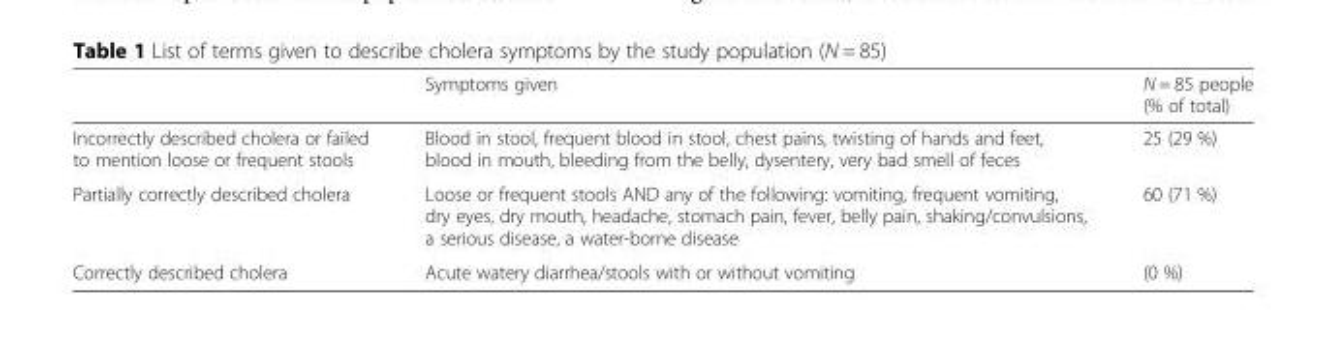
<table><thead><tr><td></td><td>Symptoms given</td><td>N = 85 people (% of total)</td></tr></thead><tbody><tr><td>Incorrectly described cholera or failed to mention loose or frequent stools</td><td>Blood in stool, frequent blood in stool, chest pains, twisting of hands and feet, blood in mouth, bleeding from the belly, dysentery, very bad smell of feces</td><td>25 (29 %)</td></tr><tr><td>Partially correctly described cholera</td><td>Loose or frequent stools AND any of the following: vomiting, frequent vomiting, dry eyes, dry mouth, headache, stomach pain, fever, belly pain, shaking/convulsions, a serious disease, a water-borne disease</td><td>60 (71 %)</td></tr><tr><td>Correctly described cholera</td><td>Acute watery diarrhea/stools with or without vomiting</td><td>(0 %)</td></tr></tbody></table>